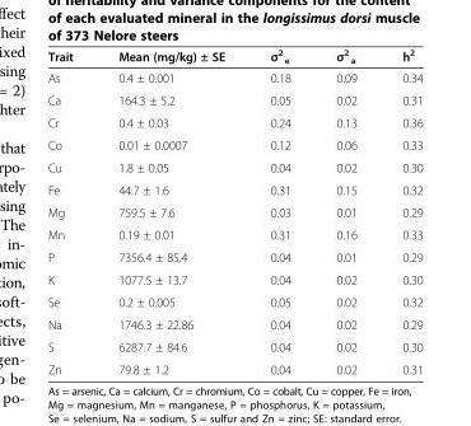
<table><thead><tr><td>Trait</td><td>Mean (mg/kg) ± SE</td><td>σ<sup>2</sup> <sub>e</sub></td><td>σ<sup>2</sup> <sub>a</sub></td><td>h<sup>2</sup></td></tr></thead><tbody><tr><td>As</td><td>0.4 ± 0.001</td><td>0.18</td><td>0.09</td><td>0.34</td></tr><tr><td>Ca</td><td>164.3 ± 5.2</td><td>0.05</td><td>0.02</td><td>0.31</td></tr><tr><td>Cr</td><td>0.4 ± 0.03</td><td>0.24</td><td>0.13</td><td>0.36</td></tr><tr><td>Co</td><td>0.01 ± 0.0007</td><td>0.12</td><td>0.06</td><td>0.33</td></tr><tr><td>Cu</td><td>1.8 ± 0.05</td><td>0.04</td><td>0.02</td><td>0.30</td></tr><tr><td>Fe</td><td>44.7 ± 1.6</td><td>0.31</td><td>0.15</td><td>0.32</td></tr><tr><td>Mg</td><td>759.5 ± 7.6</td><td>0.03</td><td>0.01</td><td>0.29</td></tr><tr><td>Mn</td><td>0.19 ± 0.01</td><td>0.31</td><td>0.16</td><td>0.33</td></tr><tr><td>P</td><td>7356.4 ± 85.4</td><td>0.04</td><td>0.01</td><td>0.29</td></tr><tr><td>K</td><td>1077.5 ± 13.7</td><td>0.04</td><td>0.02</td><td>0.30</td></tr><tr><td>Se</td><td>0.2 ± 0.005</td><td>0.05</td><td>0.02</td><td>0.32</td></tr><tr><td>Na</td><td>1746.3 ± 22.86</td><td>0.04</td><td>0.02</td><td>0.29</td></tr><tr><td>S</td><td>6287.7 ± 84.6</td><td>0.04</td><td>0.02</td><td>0.30</td></tr><tr><td>Zn</td><td>79.8 ± 1.2</td><td>0.04</td><td>0.02</td><td>0.31</td></tr></tbody></table>